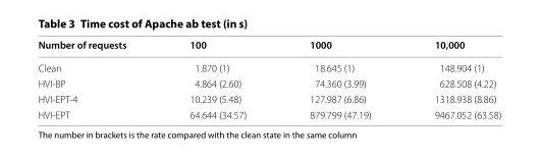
<table><thead><tr><td>Number of requests</td><td>100</td><td>1000</td><td>10,000</td></tr></thead><tbody><tr><td>Clean</td><td>1.870 (1)</td><td>18.645 (1)</td><td>148.904 (1)</td></tr><tr><td>HVI-BP</td><td>4.864 (2.60)</td><td>74.360 (3.99)</td><td>628.508 (4.22)</td></tr><tr><td>HVI-EPT-4</td><td>10.239 (5.48)</td><td>127.987 (6.86)</td><td>1318.938 (8.86)</td></tr><tr><td>HVI-EPT</td><td>64.644 (34.57)</td><td>879.799 (47.19)</td><td>9467.052 (63.58)</td></tr></tbody></table>